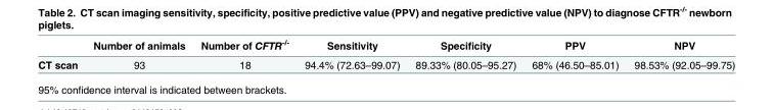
<table><thead><tr><td></td><td>Number of animals</td><td>Number of CFTR<sup>-/-</sup></td><td>Sensitivity</td><td>Specificity</td><td>PPV</td><td>NPV</td></tr></thead><tbody><tr><td>CT scan</td><td>93</td><td>18</td><td>94.4% (72.63–99.07)</td><td>89.33% (80.05–95.27)</td><td>68% (46.50–85.01)</td><td>98.53% (92.05–99.75)</td></tr></tbody></table>